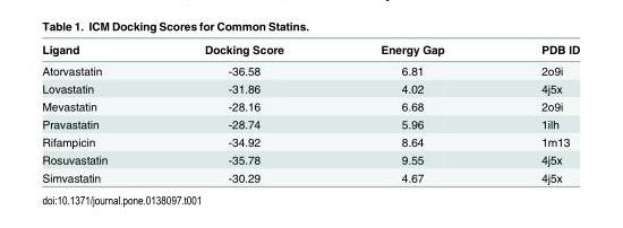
<table><thead><tr><td>Ligand</td><td>Docking Score</td><td>Energy Gap</td><td>PDB ID</td></tr></thead><tbody><tr><td>Atorvastatin</td><td>-36.58</td><td>6.81</td><td>2o9i</td></tr><tr><td>Lovastatin</td><td>-31.86</td><td>4.02</td><td>4j5x</td></tr><tr><td>Mevastatin</td><td>-28.16</td><td>6.68</td><td>2o9i</td></tr><tr><td>Pravastatin</td><td>-28.74</td><td>5.96</td><td>1ilh</td></tr><tr><td>Rifampicin</td><td>-34.92</td><td>8.64</td><td>1m13</td></tr><tr><td>Rosuvastatin</td><td>-35.78</td><td>9.55</td><td>4j5x</td></tr><tr><td>Simvastatin</td><td>-30.29</td><td>4.67</td><td>4j5x</td></tr></tbody></table>